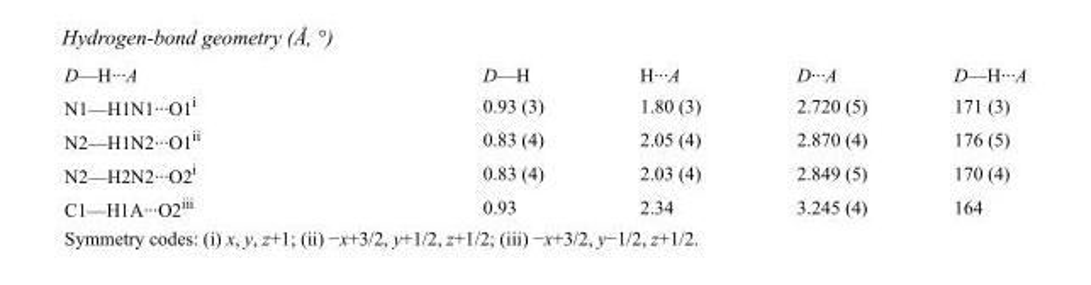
<table><tbody><tr><td>D—H···A</td><td>D—H</td><td>H···A</td><td>D···A</td><td>D—H···A</td></tr><tr><td>N1—H1N1···O1<sup>i</sup></td><td>0.93 (3)</td><td>1.80 (3)</td><td>2.720 (5)</td><td>171 (3)</td></tr><tr><td>N2—H1N2···O1<sup>ii</sup></td><td>0.83 (4)</td><td>2.05 (4)</td><td>2.870 (4)</td><td>176 (5)</td></tr><tr><td>N2—H2N2···O2<sup>i</sup></td><td>0.83 (4)</td><td>2.03 (4)</td><td>2.849 (5)</td><td>170 (4)</td></tr><tr><td>C1—H1A···O2<sup>iii</sup></td><td>0.93</td><td>2.34</td><td>3.245 (4)</td><td>164</td></tr></tbody></table>